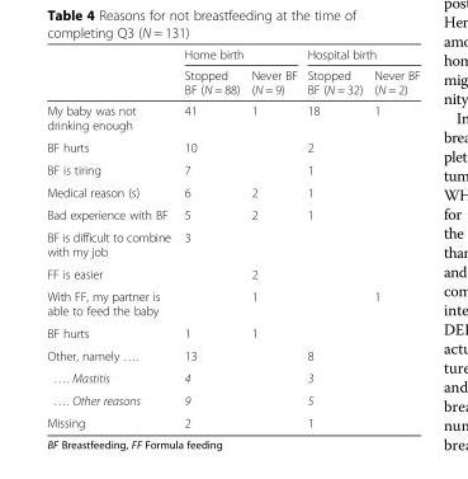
<table><thead><tr><td rowspan="2"></td><td colspan="2">Home birth</td><td colspan="2">Hospital birth</td></tr><tr><td>Stopped BF (N = 88)</td><td>Never BF (N = 9)</td><td>Stopped BF (N = 32)</td><td>Never BF (N = 2)</td></tr></thead><tbody><tr><td>My baby was not drinking enough</td><td>41</td><td>1</td><td>18</td><td>1</td></tr><tr><td>BF hurts</td><td>10</td><td></td><td>2</td><td></td></tr><tr><td>BF is tiring</td><td>7</td><td></td><td>1</td><td></td></tr><tr><td>Medical reason (s)</td><td>6</td><td>2</td><td>1</td><td></td></tr><tr><td>Bad experience with BF</td><td>5</td><td>2</td><td>1</td><td></td></tr><tr><td>BF is difficult to combine with my job</td><td>3</td><td></td><td></td><td></td></tr><tr><td>FF is easier</td><td></td><td>2</td><td></td><td></td></tr><tr><td>With FF, my partner is able to feed the baby</td><td></td><td>1</td><td></td><td>1</td></tr><tr><td>BF hurts</td><td>1</td><td>1</td><td></td><td></td></tr><tr><td>Other, namely ….</td><td>13</td><td></td><td>8</td><td></td></tr><tr><td>…. Mastitis</td><td>4</td><td></td><td>3</td><td></td></tr><tr><td>…. Other reasons</td><td>9</td><td></td><td>5</td><td></td></tr><tr><td>Missing</td><td>2</td><td></td><td>1</td><td></td></tr></tbody></table>